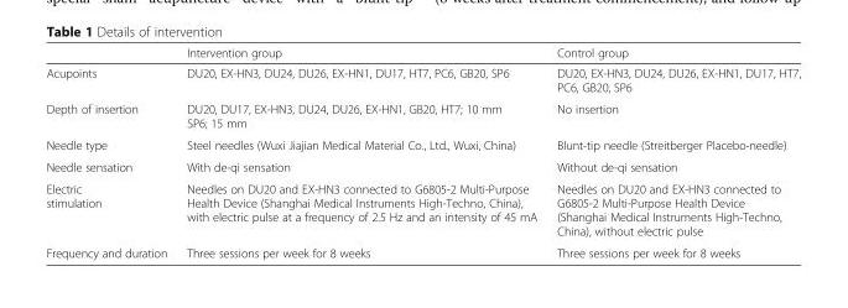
<table><thead><tr><td></td><td>Intervention group</td><td>Control group</td></tr></thead><tbody><tr><td>Acupoints</td><td>DU20, EX-HN3, DU24, DU26, EX-HN1, DU17, HT7, PC6, GB20, SP6</td><td>DU20, EX-HN3, DU24, DU26, EX-HN1, DU17, HT7, PC6, GB20, SP6</td></tr><tr><td>Depth of insertion</td><td>DU20, DU17, EX-HN3, DU24, DU26, EX-HN1, GB20, HT7; 10 mm SP6; 15 mm</td><td>No insertion</td></tr><tr><td>Needle type</td><td>Steel needles (Wuxi Jiajian Medical Material Co., Ltd., Wuxi, China)</td><td>Blunt-tip needle (Streitberger Placebo-needle)</td></tr><tr><td>Needle sensation</td><td>With de-qi sensation</td><td>Without de-qi sensation</td></tr><tr><td>Electric stimulation</td><td>Needles on DU20 and EX-HN3 connected to G6805-2 Multi-Purpose Health Device (Shanghai Medical Instruments High-Techno, China), with electric pulse at a frequency of 2.5 Hz and an intensity of 45 mA</td><td>Needles on DU20 and EX-HN3 connected to G6805-2 Multi-Purpose Health Device (Shanghai Medical Instruments High-Techno, China), without electric pulse</td></tr><tr><td>Frequency and duration</td><td>Three sessions per week for 8 weeks</td><td>Three sessions per week for 8 weeks</td></tr></tbody></table>